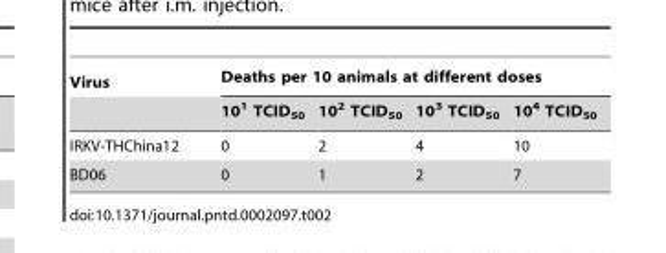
<table><thead><tr><td rowspan="2">Virus</td><td colspan="4">Deaths per 10 animals at different doses</td></tr><tr><td>10<sup>1</sup> TCID<sub>50</sub></td><td>10<sup>2</sup> TCID<sub>50</sub></td><td>10<sup>3</sup> TCID<sub>50</sub></td><td>10<sup>4</sup> TCID<sub>50</sub></td></tr></thead><tbody><tr><td>IRKV-THChina12</td><td>0</td><td>2</td><td>4</td><td>10</td></tr><tr><td>BD06</td><td>0</td><td>1</td><td>2</td><td>7</td></tr></tbody></table>